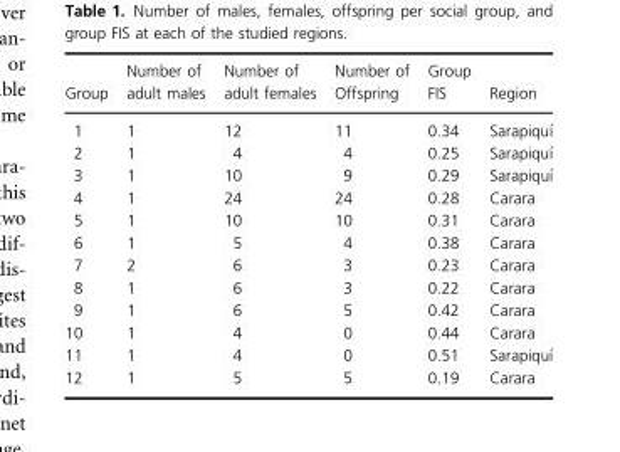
<table><thead><tr><td>Group</td><td>Number of adult males</td><td>Number of adult females</td><td>Number of Offspring</td><td>Group FIS</td><td>Region</td></tr></thead><tbody><tr><td>1</td><td>1</td><td>12</td><td>11</td><td>0.34</td><td>Sarapiqu�ı</td></tr><tr><td>2</td><td>1</td><td>4</td><td>4</td><td>0.25</td><td>Sarapiqu�ı</td></tr><tr><td>3</td><td>1</td><td>10</td><td>9</td><td>0.29</td><td>Sarapiqu�ı</td></tr><tr><td>4</td><td>1</td><td>24</td><td>24</td><td>0.28</td><td>Carara</td></tr><tr><td>5</td><td>1</td><td>10</td><td>10</td><td>0.31</td><td>Carara</td></tr><tr><td>6</td><td>1</td><td>5</td><td>4</td><td>0.38</td><td>Carara</td></tr><tr><td>7</td><td>2</td><td>6</td><td>3</td><td>0.23</td><td>Carara</td></tr><tr><td>8</td><td>1</td><td>6</td><td>3</td><td>0.22</td><td>Carara</td></tr><tr><td>9</td><td>1</td><td>6</td><td>5</td><td>0.42</td><td>Carara</td></tr><tr><td>10</td><td>1</td><td>4</td><td>0</td><td>0.44</td><td>Carara</td></tr><tr><td>11</td><td>1</td><td>4</td><td>0</td><td>0.51</td><td>Sarapiqu�ı</td></tr><tr><td>12</td><td>1</td><td>5</td><td>5</td><td>0.19</td><td>Carara</td></tr></tbody></table>